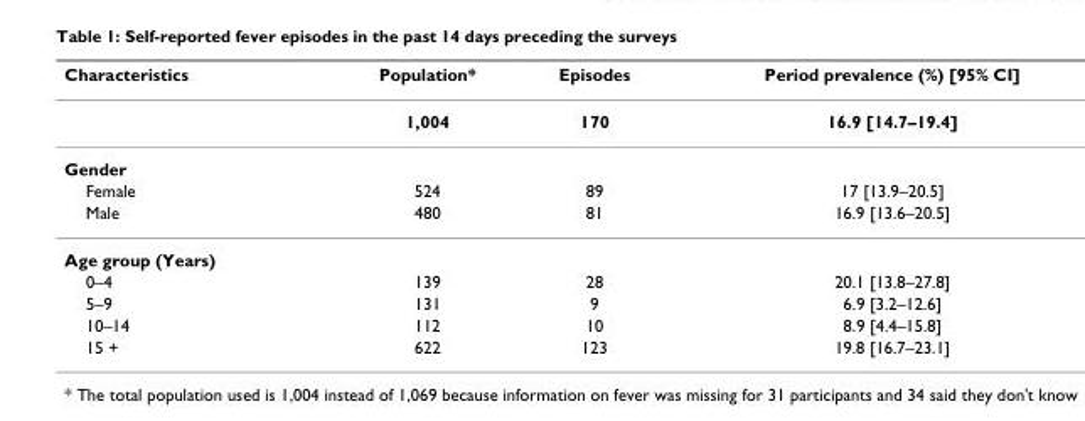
<table><thead><tr><td>Characteristics</td><td>Population*</td><td>Episodes</td><td>Period prevalence (%) [95% CI]</td></tr></thead><tbody><tr><td></td><td>1,004</td><td>170</td><td>16.9 [14.7–19.4]</td></tr><tr><td colspan="4">Gender</td></tr><tr><td>Female</td><td>524</td><td>89</td><td>17 [13.9–20.5]</td></tr><tr><td>Male</td><td>480</td><td>81</td><td>16.9 [13.6–20.5]</td></tr><tr><td colspan="4">Age group (Years)</td></tr><tr><td>0–4</td><td>139</td><td>28</td><td>20.1 [13.8–27.8]</td></tr><tr><td>5–9</td><td>131</td><td>9</td><td>6.9 [3.2–12.6]</td></tr><tr><td>10–14</td><td>112</td><td>10</td><td>8.9 [4.4–15.8]</td></tr><tr><td>15 +</td><td>622</td><td>123</td><td>19.8 [16.7–23.1]</td></tr></tbody></table>